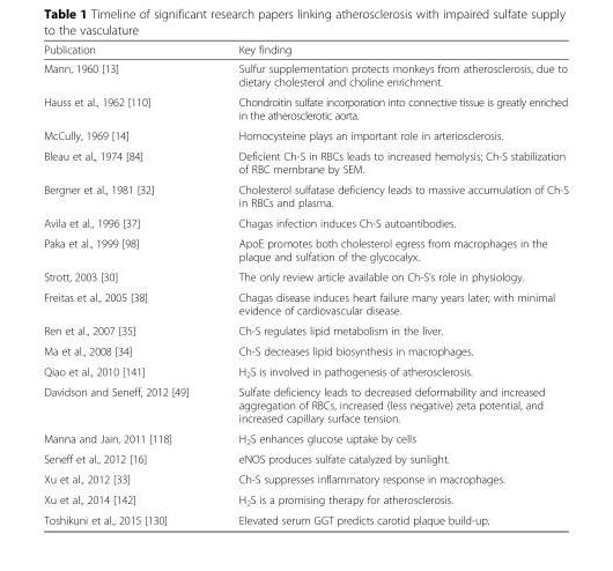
<table><thead><tr><td>Publication</td><td>Key finding</td></tr></thead><tbody><tr><td>Mann, 1960 [13]</td><td>Sulfur supplementation protects monkeys from atherosclerosis, due to dietary cholesterol and choline enrichment.</td></tr><tr><td>Hauss et al., 1962 [110]</td><td>Chondroitin sulfate incorporation into connective tissue is greatly enriched in the atherosclerotic aorta.</td></tr><tr><td>McCully, 1969 [14]</td><td>Homocysteine plays an important role in arteriosclerosis.</td></tr><tr><td>Bleau et al., 1974 [84]</td><td>Deficient Ch-S in RBCs leads to increased hemolysis; Ch-S stabilization of RBC membrane by SEM.</td></tr><tr><td>Bergner et al., 1981 [32]</td><td>Cholesterol sulfatase deficiency leads to massive accumulation of Ch-S in RBCs and plasma.</td></tr><tr><td>Avila et al., 1996 [37]</td><td>Chagas infection induces Ch-S autoantibodies.</td></tr><tr><td>Paka et al., 1999 [98]</td><td>ApoE promotes both cholesterol egress from macrophages in the plaque and sulfation of the glycocalyx.</td></tr><tr><td>Strott, 2003 [30]</td><td>The only review article available on Ch-S’s role in physiology.</td></tr><tr><td>Freitas et al., 2005 [38]</td><td>Chagas disease induces heart failure many years later; with minimal evidence of cardiovascular disease.</td></tr><tr><td>Ren et al., 2007 [35]</td><td>Ch-S regulates lipid metabolism in the liver.</td></tr><tr><td>Ma et al., 2008 [34]</td><td>Ch-S decreases lipid biosynthesis in macrophages.</td></tr><tr><td>Qiao et al., 2010 [141]</td><td>H<sub>2</sub>S is involved in pathogenesis of atherosclerosis.</td></tr><tr><td>Davidson and Seneff, 2012 [49]</td><td>Sulfate deficiency leads to decreased deformability and increased aggregation of RBCs, increased (less negative) zeta potential, and increased capillary surface tension.</td></tr><tr><td>Manna and Jain, 2011 [118]</td><td>H<sub>2</sub>S enhances glucose uptake by cells</td></tr><tr><td>Seneff et al., 2012 [16]</td><td>eNOS produces sulfate catalyzed by sunlight.</td></tr><tr><td>Xu et al., 2012 [33]</td><td>Ch-S suppresses inflammatory response in macrophages.</td></tr><tr><td>Xu et al., 2014 [142]</td><td>H<sub>2</sub>S is a promising therapy for atherosclerosis.</td></tr><tr><td>Toshikuni et al., 2015 [130]</td><td>Elevated serum GGT predicts carotid plaque build-up.</td></tr></tbody></table>